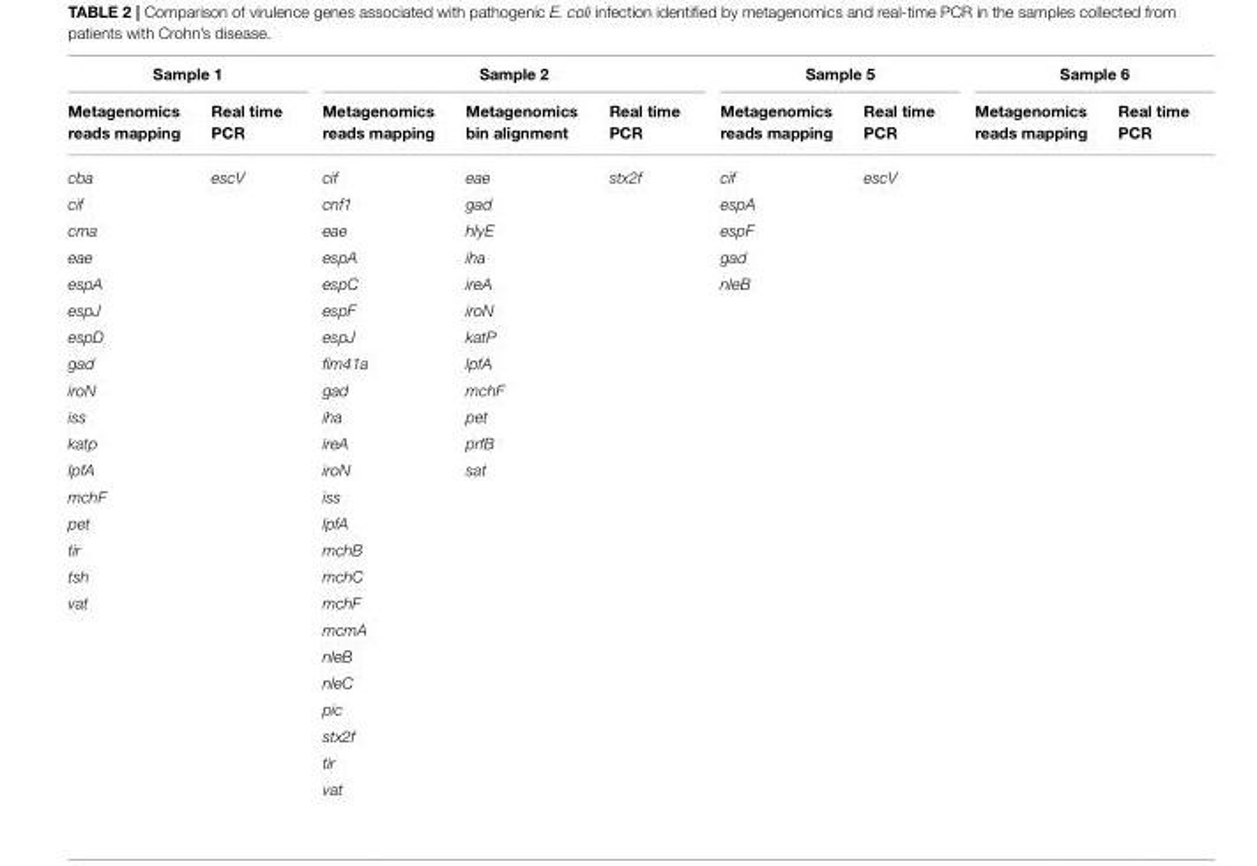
<table><thead><tr><td colspan="2">Sample 1</td><td colspan="3">Sample 2</td><td colspan="2">Sample 5</td><td colspan="2">Sample 6</td></tr><tr><td>Metagenomics reads mapping</td><td>Real time PCR</td><td>Metagenomics reads mapping</td><td>Metagenomics bin alignment</td><td>Real time PCR</td><td>Metagenomics reads mapping</td><td>Real time PCR</td><td>Metagenomics reads mapping</td><td>Real time PCR</td></tr></thead><tbody><tr><td>cba</td><td>escV</td><td>cif</td><td>eae</td><td>stx2f</td><td>cif</td><td>escV</td><td></td><td></td></tr><tr><td>cif</td><td></td><td>cnf1</td><td>gad</td><td></td><td>espA</td><td></td><td></td><td></td></tr><tr><td>cma</td><td></td><td>eae</td><td>hlyE</td><td></td><td>espF</td><td></td><td></td><td></td></tr><tr><td>eae</td><td></td><td>espA</td><td>iha</td><td></td><td>gad</td><td></td><td></td><td></td></tr><tr><td>espA</td><td></td><td>espC</td><td>ireA</td><td></td><td>nleB</td><td></td><td></td><td></td></tr><tr><td>espJ</td><td></td><td>espF</td><td>iroN</td><td></td><td></td><td></td><td></td><td></td></tr><tr><td>espD</td><td></td><td>espJ</td><td>katP</td><td></td><td></td><td></td><td></td><td></td></tr><tr><td>gad</td><td></td><td>fim41a</td><td>lpfA</td><td></td><td></td><td></td><td></td><td></td></tr><tr><td>iroN</td><td></td><td>gad</td><td>mchF</td><td></td><td></td><td></td><td></td><td></td></tr><tr><td>iss</td><td></td><td>iha</td><td>pet</td><td></td><td></td><td></td><td></td><td></td></tr><tr><td>katp</td><td></td><td>ireA</td><td>prfB</td><td></td><td></td><td></td><td></td><td></td></tr><tr><td>IpfA</td><td></td><td>iroN</td><td>sat</td><td></td><td></td><td></td><td></td><td></td></tr><tr><td>mchF</td><td></td><td>iss</td><td></td><td></td><td></td><td></td><td></td><td></td></tr><tr><td>pet</td><td></td><td>lpfA</td><td></td><td></td><td></td><td></td><td></td><td></td></tr><tr><td>tir</td><td></td><td>mchB</td><td></td><td></td><td></td><td></td><td></td><td></td></tr><tr><td>tsh</td><td></td><td>mchC</td><td></td><td></td><td></td><td></td><td></td><td></td></tr><tr><td rowspan="8">vat</td><td></td><td>mchF</td><td></td><td></td><td></td><td></td><td></td><td></td></tr><tr><td></td><td>mcmA</td><td></td><td></td><td></td><td></td><td></td><td></td></tr><tr><td></td><td>nleB</td><td></td><td></td><td></td><td></td><td></td><td></td></tr><tr><td></td><td>nleC</td><td></td><td></td><td></td><td></td><td></td><td></td></tr><tr><td></td><td>pic</td><td></td><td></td><td></td><td></td><td></td><td></td></tr><tr><td></td><td>stx2f</td><td></td><td></td><td></td><td></td><td></td><td></td></tr><tr><td></td><td>tir</td><td></td><td></td><td></td><td></td><td></td><td></td></tr><tr><td></td><td>vat</td><td></td><td></td><td></td><td></td><td></td><td></td></tr></tbody></table>